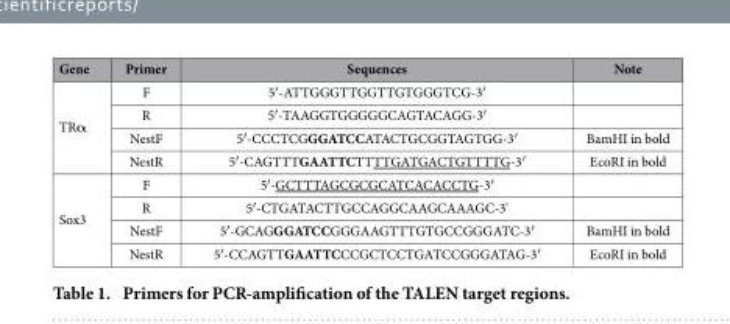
<table><thead><tr><td>Gene</td><td>Primer</td><td>Sequences</td><td>Note</td></tr></thead><tbody><tr><td rowspan="4">TRα</td><td>F</td><td>5′ -ATTGGGTTGGTTGTGGGTCG-3′</td><td></td></tr><tr><td>R</td><td>5′ -TAAGGTGGGGGCAGTACAGG-3′</td><td></td></tr><tr><td>NestF</td><td>5′ -CCCTCGGGATCCATACTGCGGTAGTGG-3′</td><td>BamHI in bold</td></tr><tr><td>NestR</td><td>5′ -CAGTTTGAATTCTTTTGATGACTGTTTTG-3′</td><td>EcoRI in bold</td></tr><tr><td rowspan="4">Sox3</td><td>F</td><td>5′ -GCTTTAGCGCGCATCACACCTG-3′</td><td></td></tr><tr><td>R</td><td>5′ -CTGATACTTGCCAGGCAAGCAAAGC-3&#x27;</td><td></td></tr><tr><td>NestF</td><td>5′ -GCAGGGATCCGGGAAGTTTGTGCCGGGATC-3′</td><td>BamHI in bold</td></tr><tr><td>NestR</td><td>5′ -CCAGTTGAATTCCCGCTCCTGATCCGGGATAG-3′</td><td>EcoRI in bold</td></tr></tbody></table>